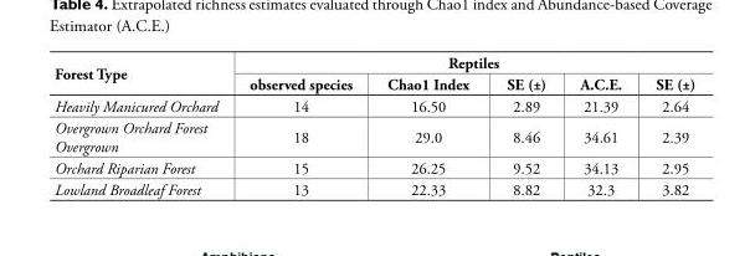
<table><thead><tr><td rowspan="2">Forest Type</td><td colspan="5">Reptiles</td></tr><tr><td>observed species</td><td>Chao1 Index</td><td>SE (±)</td><td>A.C.E.</td><td>SE (±)</td></tr></thead><tbody><tr><td>Heavily Manicured Orchard</td><td>14</td><td>16.50</td><td>2.89</td><td>21.39</td><td>2.64</td></tr><tr><td>Overgrown Orchard Forest Overgrown</td><td>18</td><td>29.0</td><td>8.46</td><td>34.61</td><td>2.39</td></tr><tr><td>Orchard Riparian Forest</td><td>15</td><td>26.25</td><td>9.52</td><td>34.13</td><td>2.95</td></tr><tr><td>Lowland Broadleaf Forest</td><td>13</td><td>22.33</td><td>8.82</td><td>32.3</td><td>3.82</td></tr></tbody></table>